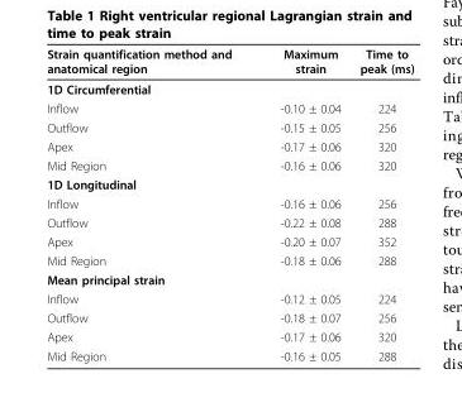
<table><thead><tr><td>Strain quantification method and anatomical region</td><td>Maximum strain</td><td>Time to peak (ms)</td></tr></thead><tbody><tr><td colspan="3">1D Circumferential</td></tr><tr><td>Inflow</td><td>-0.10 ± 0.04</td><td>224</td></tr><tr><td>Outflow</td><td>-0.15 ± 0.05</td><td>256</td></tr><tr><td>Apex</td><td>-0.17 ± 0.06</td><td>320</td></tr><tr><td>Mid Region</td><td>-0.16 ± 0.06</td><td>320</td></tr><tr><td colspan="3">1D Longitudinal</td></tr><tr><td>Inflow</td><td>-0.16 ± 0.06</td><td>256</td></tr><tr><td>Outflow</td><td>-0.22 ± 0.08</td><td>288</td></tr><tr><td>Apex</td><td>-0.20 ± 0.07</td><td>352</td></tr><tr><td>Mid Region</td><td>-0.18 ± 0.06</td><td>288</td></tr><tr><td colspan="3">Mean principal strain</td></tr><tr><td>Inflow</td><td>-0.12 ± 0.05</td><td>224</td></tr><tr><td>Outflow</td><td>-0.18 ± 0.07</td><td>256</td></tr><tr><td>Apex</td><td>-0.17 ± 0.06</td><td>320</td></tr><tr><td>Mid Region</td><td>-0.16 ± 0.05</td><td>288</td></tr></tbody></table>